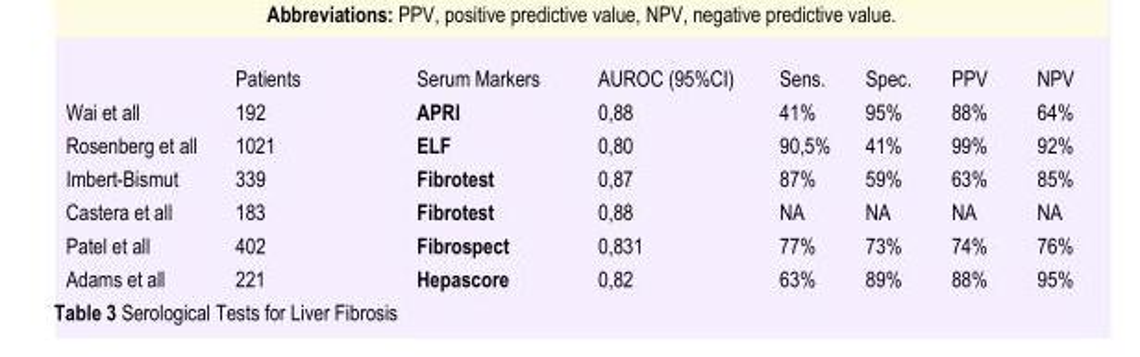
<table><thead><tr><td></td><td>Patients</td><td>Serum Markers</td><td>AUROC (95%CI)</td><td>Sens.</td><td>Spec.</td><td>PPV</td><td>NPV</td></tr></thead><tbody><tr><td>Wai et all</td><td>192</td><td>APRI</td><td>0,88</td><td>41%</td><td>95%</td><td>88%</td><td>64%</td></tr><tr><td>Rosenberg et all</td><td>1021</td><td>ELF</td><td>0,80</td><td>90,5%</td><td>41%</td><td>99%</td><td>92%</td></tr><tr><td>Imbert-Bismut</td><td>339</td><td>Fibrotest</td><td>0,87</td><td>87%</td><td>59%</td><td>63%</td><td>85%</td></tr><tr><td>Castera et all</td><td>183</td><td>Fibrotest</td><td>0,88</td><td>NA</td><td>NA</td><td>NA</td><td>NA</td></tr><tr><td>Patel et all</td><td>402</td><td>Fibrospect</td><td>0,831</td><td>77%</td><td>73%</td><td>74%</td><td>76%</td></tr><tr><td>Adams et all</td><td>221</td><td>Hepascore</td><td>0,82</td><td>63%</td><td>89%</td><td>88%</td><td>95%</td></tr></tbody></table>